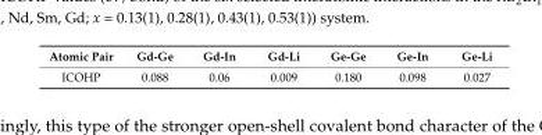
<table><thead><tr><td>Atomic Pair</td><td>Gd-Ge</td><td>Gd-In</td><td>Gd-Li</td><td>Ge-Ge</td><td>Ge-In</td><td>Ge-Li</td></tr></thead><tbody><tr><td>ICOHP</td><td>0.088</td><td>0.06</td><td>0.009</td><td>0.180</td><td>0.098</td><td>0.027</td></tr></tbody></table>